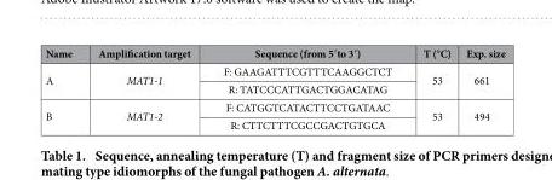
<table><thead><tr><td>Name</td><td>Amplification target</td><td>Sequence (from 5′to 3′)</td><td>T (°C)</td><td>Exp. size</td></tr></thead><tbody><tr><td rowspan="2">A</td><td rowspan="2">MAT1-1</td><td>F: GAAGATTTCGTTTCAAGGCTCT</td><td rowspan="2">53</td><td rowspan="2">661</td></tr><tr><td>R: TATCCCATTGACTGGACATAG</td></tr><tr><td rowspan="2">B</td><td rowspan="2">MAT1-2</td><td>F: CATGGTCATACTTCCTGATAAC</td><td rowspan="2">53</td><td rowspan="2">494</td></tr><tr><td>R: CTTCTTTCGCCGACTGTGCA</td></tr></tbody></table>